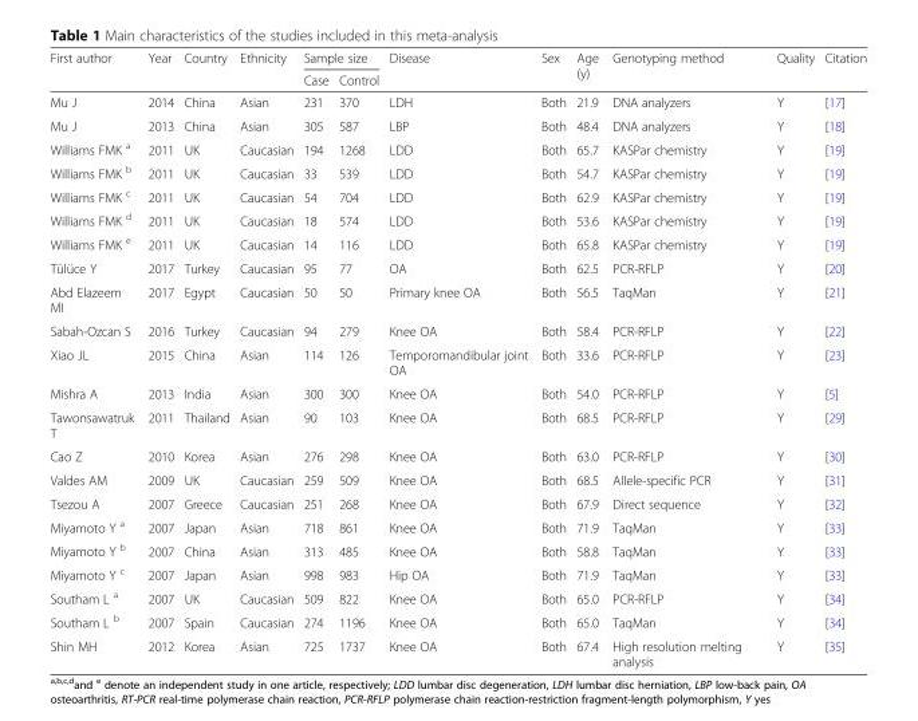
<table><thead><tr><td rowspan="2">First author</td><td rowspan="2">Year</td><td rowspan="2">Country</td><td rowspan="2">Ethnicity</td><td colspan="2">Sample size</td><td rowspan="2">Disease</td><td rowspan="2">Sex</td><td rowspan="2">Age (y)</td><td rowspan="2">Genotyping method</td><td rowspan="2">Quality</td><td rowspan="2">Citation</td></tr><tr><td>Case</td><td>Control</td></tr></thead><tbody><tr><td>Mu J</td><td>2014</td><td>China</td><td>Asian</td><td>231</td><td>370</td><td>LDH</td><td>Both</td><td>21.9</td><td>DNA analyzers</td><td>Y</td><td>[17]</td></tr><tr><td>Mu J</td><td>2013</td><td>China</td><td>Asian</td><td>305</td><td>587</td><td>LBP</td><td>Both</td><td>48.4</td><td>DNA analyzers</td><td>Y</td><td>[18]</td></tr><tr><td>Williams FMK <sup>a</sup></td><td>2011</td><td>UK</td><td>Caucasian</td><td>194</td><td>1268</td><td>LDD</td><td>Both</td><td>65.7</td><td>KASPar chemistry</td><td>Y</td><td>[19]</td></tr><tr><td>Williams FMK <sup>b</sup></td><td>2011</td><td>UK</td><td>Caucasian</td><td>33</td><td>539</td><td>LDD</td><td>Both</td><td>54.7</td><td>KASPar chemistry</td><td>Y</td><td>[19]</td></tr><tr><td>Williams FMK <sup>c</sup></td><td>2011</td><td>UK</td><td>Caucasian</td><td>54</td><td>704</td><td>LDD</td><td>Both</td><td>62.9</td><td>KASPar chemistry</td><td>Y</td><td>[19]</td></tr><tr><td>Williams FMK <sup>d</sup></td><td>2011</td><td>UK</td><td>Caucasian</td><td>18</td><td>574</td><td>LDD</td><td>Both</td><td>53.6</td><td>KASPar chemistry</td><td>Y</td><td>[19]</td></tr><tr><td>Williams FMK <sup>e</sup></td><td>2011</td><td>UK</td><td>Caucasian</td><td>14</td><td>116</td><td>LDD</td><td>Both</td><td>65.8</td><td>KASPar chemistry</td><td>Y</td><td>[19]</td></tr><tr><td>Tülüce Y</td><td>2017</td><td>Turkey</td><td>Caucasian</td><td>95</td><td>77</td><td>OA</td><td>Both</td><td>62.5</td><td>PCR-RFLP</td><td>Y</td><td>[20]</td></tr><tr><td>Abd Elazeem MI</td><td>2017</td><td>Egypt</td><td>Caucasian</td><td>50</td><td>50</td><td>Primary knee OA</td><td>Both</td><td>56.5</td><td>TaqMan</td><td>Y</td><td>[21]</td></tr><tr><td>Sabah-Ozcan S</td><td>2016</td><td>Turkey</td><td>Caucasian</td><td>94</td><td>279</td><td>Knee OA</td><td>Both</td><td>58.4</td><td>PCR-RFLP</td><td>Y</td><td>[22]</td></tr><tr><td>Xiao JL</td><td>2015</td><td>China</td><td>Asian</td><td>114</td><td>126</td><td>Temporomandibular joint OA</td><td>Both</td><td>33.6</td><td>PCR-RFLP</td><td>Y</td><td>[23]</td></tr><tr><td>Mishra A</td><td>2013</td><td>India</td><td>Asian</td><td>300</td><td>300</td><td>Knee OA</td><td>Both</td><td>54.0</td><td>PCR-RFLP</td><td>Y</td><td>[5]</td></tr><tr><td>Tawonsawatruk T</td><td>2011</td><td>Thailand</td><td>Asian</td><td>90</td><td>103</td><td>Knee OA</td><td>Both</td><td>68.5</td><td>PCR-RFLP</td><td>Y</td><td>[29]</td></tr><tr><td>Cao Z</td><td>2010</td><td>Korea</td><td>Asian</td><td>276</td><td>298</td><td>Knee OA</td><td>Both</td><td>63.0</td><td>PCR-RFLP</td><td>Y</td><td>[30]</td></tr><tr><td>Valdes AM</td><td>2009</td><td>UK</td><td>Caucasian</td><td>259</td><td>509</td><td>Knee OA</td><td>Both</td><td>68.5</td><td>Allele-specific PCR</td><td>Y</td><td>[31]</td></tr><tr><td>Tsezou A</td><td>2007</td><td>Greece</td><td>Caucasian</td><td>251</td><td>268</td><td>Knee OA</td><td>Both</td><td>67.9</td><td>Direct sequence</td><td>Y</td><td>[32]</td></tr><tr><td>Miyamoto Y <sup>a</sup></td><td>2007</td><td>Japan</td><td>Asian</td><td>718</td><td>861</td><td>Knee OA</td><td>Both</td><td>71.9</td><td>TaqMan</td><td>Y</td><td>[33]</td></tr><tr><td>Miyamoto Y <sup>b</sup></td><td>2007</td><td>China</td><td>Asian</td><td>313</td><td>485</td><td>Knee OA</td><td>Both</td><td>58.8</td><td>TaqMan</td><td>Y</td><td>[33]</td></tr><tr><td>Miyamoto Y <sup>c</sup></td><td>2007</td><td>Japan</td><td>Asian</td><td>998</td><td>983</td><td>Hip OA</td><td>Both</td><td>71.9</td><td>TaqMan</td><td>Y</td><td>[33]</td></tr><tr><td>Southam L <sup>a</sup></td><td>2007</td><td>UK</td><td>Caucasian</td><td>509</td><td>822</td><td>Knee OA</td><td>Both</td><td>65.0</td><td>PCR-RFLP</td><td>Y</td><td>[34]</td></tr><tr><td>Southam L <sup>b</sup></td><td>2007</td><td>Spain</td><td>Caucasian</td><td>274</td><td>1196</td><td>Knee OA</td><td>Both</td><td>65.0</td><td>TaqMan</td><td>Y</td><td>[34]</td></tr><tr><td>Shin MH</td><td>2012</td><td>Korea</td><td>Asian</td><td>725</td><td>1737</td><td>Knee OA</td><td>Both</td><td>67.4</td><td>High resolution melting analysis</td><td>Y</td><td>[35]</td></tr></tbody></table>